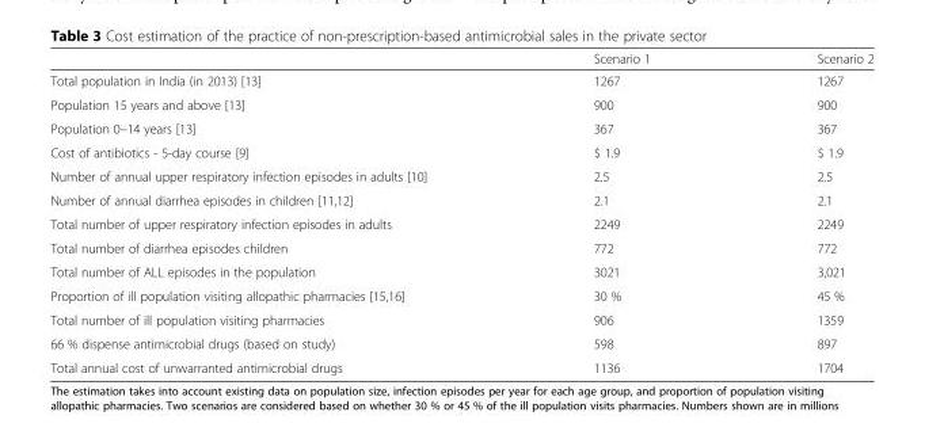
<table><thead><tr><td></td><td>Scenario 1</td><td>Scenario 2</td></tr></thead><tbody><tr><td>Total population in India (in 2013) [13]</td><td>1267</td><td>1267</td></tr><tr><td>Population 15 years and above [13]</td><td>900</td><td>900</td></tr><tr><td>Population 0–14 years [13]</td><td>367</td><td>367</td></tr><tr><td>Cost of antibiotics - 5-day course [9]</td><td>$ 1.9</td><td>$ 1.9</td></tr><tr><td>Number of annual upper respiratory infection episodes in adults [10]</td><td>2.5</td><td>2.5</td></tr><tr><td>Number of annual diarrhea episodes in children [11,12]</td><td>2.1</td><td>2.1</td></tr><tr><td>Total number of upper respiratory infection episodes in adults</td><td>2249</td><td>2249</td></tr><tr><td>Total number of diarrhea episodes children</td><td>772</td><td>772</td></tr><tr><td>Total number of ALL episodes in the population</td><td>3021</td><td>3,021</td></tr><tr><td>Proportion of ill population visiting allopathic pharmacies [15,16]</td><td>30 %</td><td>45 %</td></tr><tr><td>Total number of ill population visiting pharmacies</td><td>906</td><td>1359</td></tr><tr><td>66 % dispense antimicrobial drugs (based on study)</td><td>598</td><td>897</td></tr><tr><td>Total annual cost of unwarranted antimicrobial drugs</td><td>1136</td><td>1704</td></tr></tbody></table>